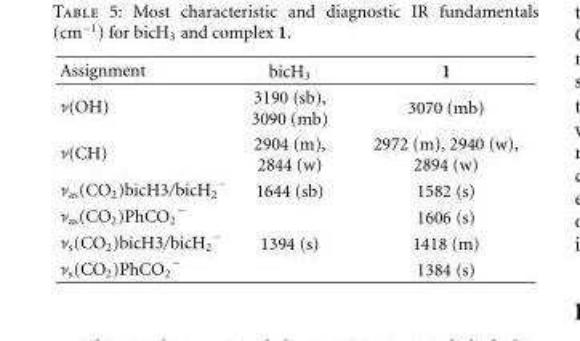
<table><thead><tr><td>Assignment</td><td>bicH<sub>3</sub></td><td>1</td></tr></thead><tbody><tr><td>ν(OH)</td><td>3190 (sb), 3090 (mb)</td><td>3070 (mb)</td></tr><tr><td>ν(CH)</td><td>2904 (m), 2844 (w)</td><td>2972 (m), 2940 (w), 2894 (w)</td></tr><tr><td>ν<sub>as</sub>(CO<sub>2</sub>)bicH3/bicH<sub>2</sub> <sup>−</sup></td><td>1644 (sb)</td><td>1582 (s)</td></tr><tr><td>ν<sub>as</sub>(CO<sub>2</sub>)PhCO<sub>2</sub> <sup>−</sup></td><td></td><td>1606 (s)</td></tr><tr><td>ν<sub>s</sub>(CO<sub>2</sub>)bicH3/bicH<sub>2</sub> <sup>−</sup></td><td>1394 (s)</td><td>1418 (m)</td></tr><tr><td>ν<sub>s</sub>(CO<sub>2</sub>)PhCO<sub>2</sub> <sup>−</sup></td><td></td><td>1384 (s)</td></tr></tbody></table>